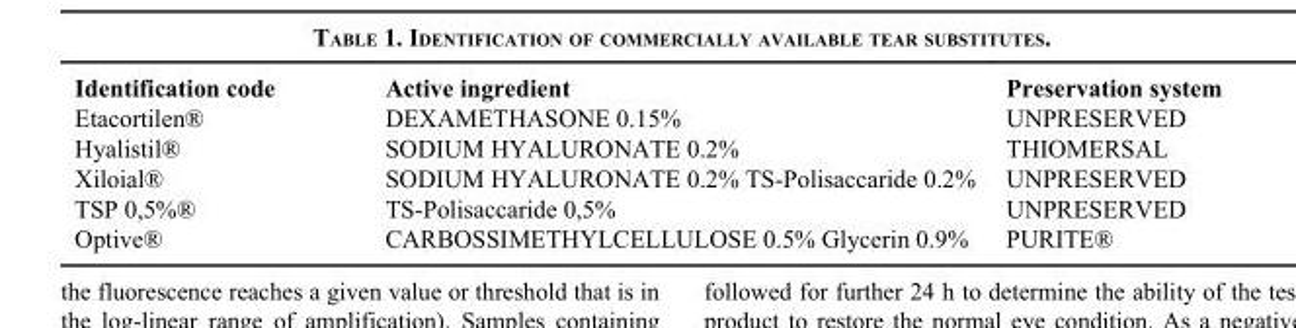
<table><thead><tr><td>Identification code</td><td>Active ingredient</td><td>Preservation system</td></tr></thead><tbody><tr><td>Etacortilen®</td><td>DEXAMETHASONE 0.15%</td><td>UNPRESERVED</td></tr><tr><td>Hyalistil®</td><td>SODIUM HYALURONATE 0.2%</td><td>THIOMERSAL</td></tr><tr><td>Xiloial®</td><td>SODIUM HYALURONATE 0.2% TS-Polisaccaride 0.2%</td><td>UNPRESERVED</td></tr><tr><td>TSP 0,5%®</td><td>TS-Polisaccaride 0,5%</td><td>UNPRESERVED</td></tr><tr><td>Optive®</td><td>CARBOSSIMETHYLCELLULOSE 0.5% Glycerin 0.9%</td><td>PURITE®</td></tr></tbody></table>